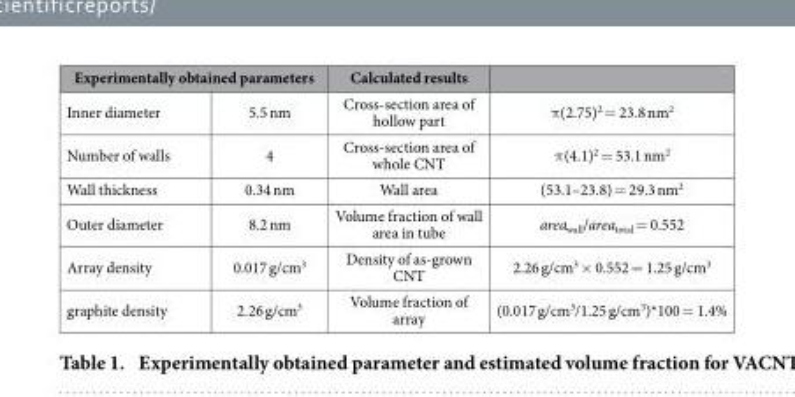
<table><thead><tr><td colspan="2">Experimentally obtained parameters</td><td rowspan="2">Calculated results Cross-section area of hollow part</td><td rowspan="2">π (2.75)<sup>2</sup> = 23.8 nm<sup>2</sup></td></tr><tr><td>Inner diameter</td><td>5.5 nm</td></tr></thead><tbody><tr><td>Number of walls</td><td>4</td><td>Cross-section area of whole CNT</td><td>π (4.1)<sup>2</sup> = 53.1 nm<sup>2</sup></td></tr><tr><td>Wall thickness</td><td>0.34 nm</td><td>Wall area</td><td>(53.1–23.8) = 29.3 nm<sup>2</sup></td></tr><tr><td>Outer diameter</td><td>8.2 nm</td><td>Volume fraction of wall area in tube</td><td>area<sub>wall</sub>/area<sub>total</sub> = 0.552</td></tr><tr><td>Array density</td><td>0.017 g/cm<sup>3</sup></td><td>Density of as-grown CNT</td><td>2.26 g/cm<sup>3</sup> × 0.552 = 1.25 g/cm<sup>3</sup></td></tr><tr><td>graphite density</td><td>2.26 g/cm<sup>3</sup></td><td>Volume fraction of array</td><td>(0.017 g/cm<sup>3</sup>/1.25 g/cm<sup>3</sup>)*100 = 1.4%</td></tr></tbody></table>